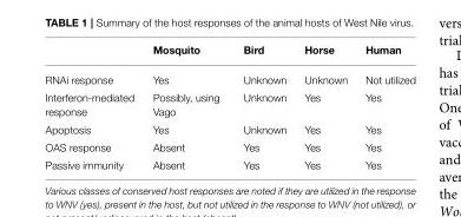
<table><thead><tr><td></td><td>Mosquito</td><td>Bird</td><td>Horse</td><td>Human</td></tr></thead><tbody><tr><td>RNAi response</td><td>Yes</td><td>Unknown</td><td>Unknown</td><td>Not utilized</td></tr><tr><td>Interferon-mediated response</td><td>Possibly, using Vago</td><td>Unknown</td><td>Yes</td><td>Yes</td></tr><tr><td>Apoptosis</td><td>Yes</td><td>Unknown</td><td>Yes</td><td>Yes</td></tr><tr><td>OAS response</td><td>Absent</td><td>Yes</td><td>Yes</td><td>Yes</td></tr><tr><td>Passive immunity</td><td>Absent</td><td>Yes</td><td>Yes</td><td>Yes</td></tr></tbody></table>